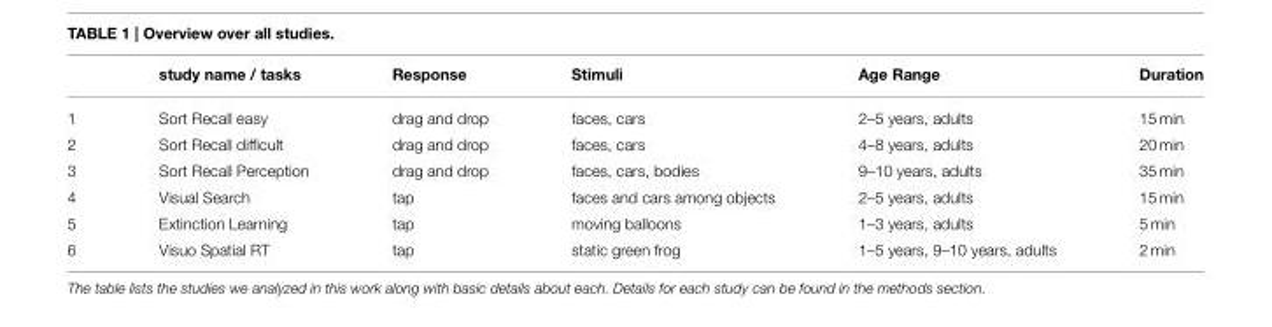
<table><thead><tr><td></td><td>study name / tasks</td><td>Response</td><td>Stimuli</td><td>Age Range</td><td>Duration</td></tr></thead><tbody><tr><td>1</td><td>Sort Recall easy</td><td>drag and drop</td><td>faces, cars</td><td>2–5 years, adults</td><td>15 min</td></tr><tr><td>2</td><td>Sort Recall difficult</td><td>drag and drop</td><td>faces, cars</td><td>4–8 years, adults</td><td>20 min</td></tr><tr><td>3</td><td>Sort Recall Perception</td><td>drag and drop</td><td>faces, cars, bodies</td><td>9–10 years, adults</td><td>35 min</td></tr><tr><td>4</td><td>Visual Search</td><td>tap</td><td>faces and cars among objects</td><td>2–5 years, adults</td><td>15 min</td></tr><tr><td>5</td><td>Extinction Learning</td><td>tap</td><td>moving balloons</td><td>1–3 years, adults</td><td>5 min</td></tr><tr><td>6</td><td>Visuo Spatial RT</td><td>tap</td><td>static green frog</td><td>1–5 years, 9–10 years, adults</td><td>2 min</td></tr></tbody></table>